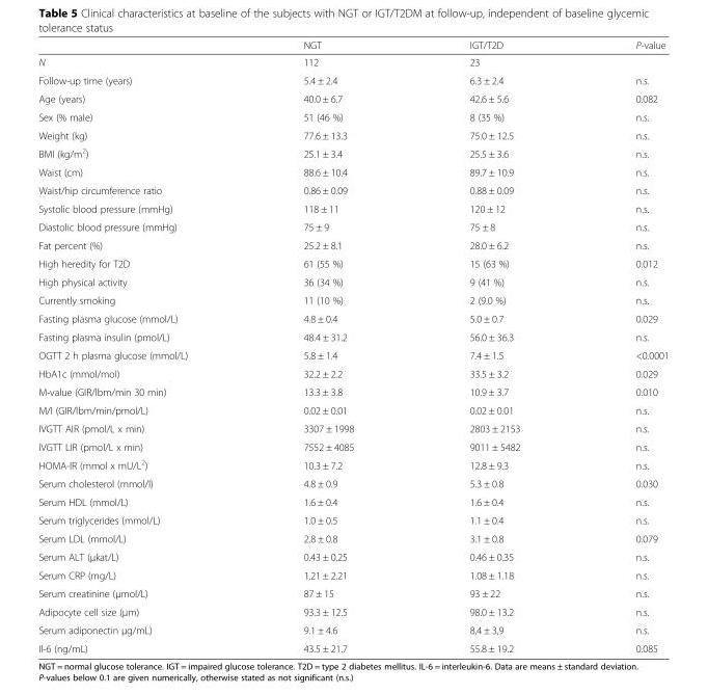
<table><thead><tr><td></td><td>NGT</td><td>IGT/T2D</td><td>P-value</td></tr></thead><tbody><tr><td>N</td><td>112</td><td>23</td><td></td></tr><tr><td>Follow-up time (years)</td><td>5.4 ± 2.4</td><td>6.3 ± 2.4</td><td>n.s.</td></tr><tr><td>Age (years)</td><td>40.0 ± 6.7</td><td>42.6 ± 5.6</td><td>0.082</td></tr><tr><td>Sex (% male)</td><td>51 (46 %)</td><td>8 (35 %)</td><td>n.s.</td></tr><tr><td>Weight (kg)</td><td>77.6 ± 13.3</td><td>75.0 ± 12.5</td><td>n.s.</td></tr><tr><td>BMI (kg/m<sup>2</sup>)</td><td>25.1 ± 3.4</td><td>25.5 ± 3.6</td><td>n.s.</td></tr><tr><td>Waist (cm)</td><td>88.6 ± 10.4</td><td>89.7 ± 10.9</td><td>n.s.</td></tr><tr><td>Waist/hip circumference ratio</td><td>0.86 ± 0.09</td><td>0.88 ± 0.09</td><td>n.s.</td></tr><tr><td>Systolic blood pressure (mmHg)</td><td>118 ± 11</td><td>120 ± 12</td><td>n.s.</td></tr><tr><td>Diastolic blood pressure (mmHg)</td><td>75 ± 9</td><td>75 ± 8</td><td>n.s.</td></tr><tr><td>Fat percent (%)</td><td>25.2 ± 8.1</td><td>28.0 ± 6.2</td><td>n.s.</td></tr><tr><td>High heredity for T2D</td><td>61 (55 %)</td><td>15 (63 %)</td><td>0.012</td></tr><tr><td>High physical activity</td><td>36 (34 %)</td><td>9 (41 %)</td><td>n.s.</td></tr><tr><td>Currently smoking</td><td>11 (10 %)</td><td>2 (9.0 %)</td><td>n.s.</td></tr><tr><td>Fasting plasma glucose (mmol/L)</td><td>4.8 ± 0.4</td><td>5.0 ± 0.7</td><td>0.029</td></tr><tr><td>Fasting plasma insulin (pmol/L)</td><td>48.4 ± 31.2</td><td>56.0 ± 36.3</td><td>n.s.</td></tr><tr><td>OGTT 2 h plasma glucose (mmol/L)</td><td>5.8 ± 1.4</td><td>7.4 ± 1.5</td><td>&lt;0.0001</td></tr><tr><td>HbA1c (mmol/mol)</td><td>32.2 ± 2.2</td><td>33.5 ± 3.2</td><td>0.029</td></tr><tr><td>M-value (GIR/lbm/min 30 min)</td><td>13.3 ± 3.8</td><td>10.9 ± 3.7</td><td>0.010</td></tr><tr><td>M/I (GIR/lbm/min/pmol/L)</td><td>0.02 ± 0.01</td><td>0.02 ± 0.01</td><td>n.s.</td></tr><tr><td>IVGTT AIR (pmol/L x min)</td><td>3307 ± 1998</td><td>2803 ± 2153</td><td>n.s.</td></tr><tr><td>IVGTT LIR (pmol/L x min)</td><td>7552 ± 4085</td><td>9011 ± 5482</td><td>n.s.</td></tr><tr><td>HOMA-IR (mmol x mU/L<sup>2</sup>)</td><td>10.3 ± 7.2</td><td>12.8 ± 9.3</td><td>n.s.</td></tr><tr><td>Serum cholesterol (mmol/l)</td><td>4.8 ± 0.9</td><td>5.3 ± 0.8</td><td>0.030</td></tr><tr><td>Serum HDL (mmol/L)</td><td>1.6 ± 0.4</td><td>1.6 ± 0.4</td><td>n.s.</td></tr><tr><td>Serum triglycerides (mmol/L)</td><td>1.0 ± 0.5</td><td>1.1 ± 0.4</td><td>n.s.</td></tr><tr><td>Serum LDL (mmol/L)</td><td>2.8 ± 0.8</td><td>3.1 ± 0.8</td><td>0.079</td></tr><tr><td>Serum ALT (μkat/L)</td><td>0.43 ± 0.25</td><td>0.46 ± 0.35</td><td>n.s.</td></tr><tr><td>Serum CRP (mg/L)</td><td>1.21 ± 2.21</td><td>1.08 ± 1.18</td><td>n.s.</td></tr><tr><td>Serum creatinine (μmol/L)</td><td>87 ± 15</td><td>93 ± 22</td><td>n.s.</td></tr><tr><td>Adipocyte cell size (μm)</td><td>93.3 ± 12.5</td><td>98.0 ± 13.2</td><td>n.s.</td></tr><tr><td>Serum adiponectin μg/mL)</td><td>9.1 ± 4.6</td><td>8,4 ± 3,9</td><td>n.s.</td></tr><tr><td>Il-6 (ng/mL)</td><td>43.5 ± 21.7</td><td>55.8 ± 19.2</td><td>0.085</td></tr></tbody></table>